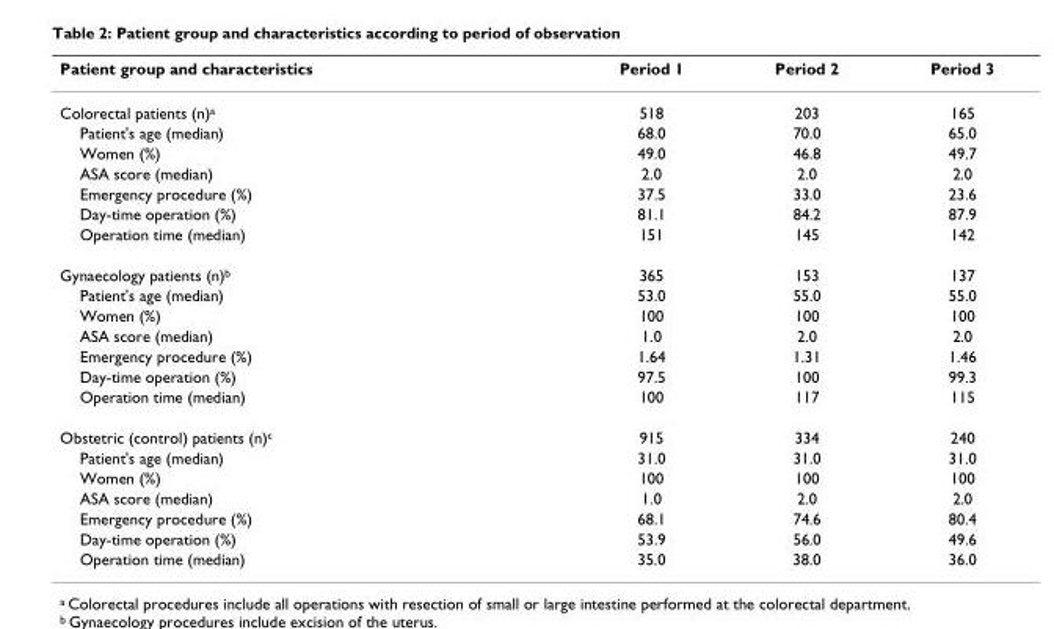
<table><thead><tr><td>Patient group and characteristics</td><td>Period 1</td><td>Period 2</td><td>Period 3</td></tr></thead><tbody><tr><td>Colorectal patients (n)<sup>a</sup></td><td>518</td><td>203</td><td>165</td></tr><tr><td>Patient&#x27;s age (median)</td><td>68.0</td><td>70.0</td><td>65.0</td></tr><tr><td>Women (%)</td><td>49.0</td><td>46.8</td><td>49.7</td></tr><tr><td>ASA score (median)</td><td>2.0</td><td>2.0</td><td>2.0</td></tr><tr><td>Emergency procedure (%)</td><td>37.5</td><td>33.0</td><td>23.6</td></tr><tr><td>Day-time operation (%)</td><td>81.1</td><td>84.2</td><td>87.9</td></tr><tr><td>Operation time (median)</td><td>151</td><td>145</td><td>142</td></tr><tr><td>Gynaecology patients (n)<sup>b</sup></td><td>365</td><td>153</td><td>137</td></tr><tr><td>Patient&#x27;s age (median)</td><td>53.0</td><td>55.0</td><td>55.0</td></tr><tr><td>Women (%)</td><td>100</td><td>100</td><td>100</td></tr><tr><td>ASA score (median)</td><td>1.0</td><td>2.0</td><td>2.0</td></tr><tr><td>Emergency procedure (%)</td><td>1.64</td><td>1.31</td><td>1.46</td></tr><tr><td>Day-time operation (%)</td><td>97.5</td><td>100</td><td>99.3</td></tr><tr><td>Operation time (median)</td><td>100</td><td>117</td><td>115</td></tr><tr><td>Obstetric (control) patients (n)<sup>c</sup></td><td>915</td><td>334</td><td>240</td></tr><tr><td>Patient&#x27;s age (median)</td><td>31.0</td><td>31.0</td><td>31.0</td></tr><tr><td>Women (%)</td><td>100</td><td>100</td><td>100</td></tr><tr><td>ASA score (median)</td><td>1.0</td><td>2.0</td><td>2.0</td></tr><tr><td>Emergency procedure (%)</td><td>68.1</td><td>74.6</td><td>80.4</td></tr><tr><td>Day-time operation (%)</td><td>53.9</td><td>56.0</td><td>49.6</td></tr><tr><td>Operation time (median)</td><td>35.0</td><td>38.0</td><td>36.0</td></tr></tbody></table>